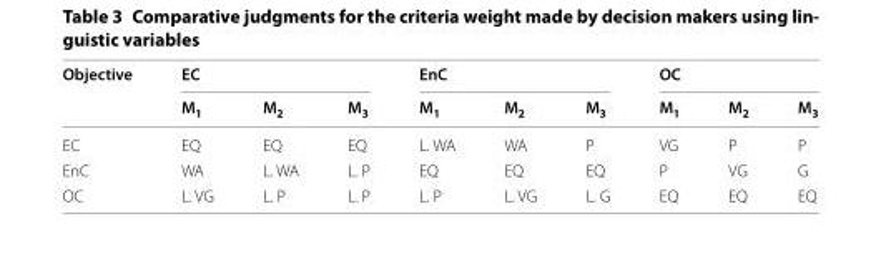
<table><thead><tr><td rowspan="2">Objective</td><td colspan="3">EC</td><td colspan="3">EnC</td><td colspan="3">OC</td></tr><tr><td>M<sub>1</sub></td><td>M<sub>2</sub></td><td>M<sub>3</sub></td><td>M<sub>1</sub></td><td>M<sub>2</sub></td><td>M<sub>3</sub></td><td>M<sub>1</sub></td><td>M<sub>2</sub></td><td>M<sub>3</sub></td></tr></thead><tbody><tr><td>EC</td><td>EQ</td><td>EQ</td><td>EQ</td><td>L. WA</td><td>WA</td><td>P</td><td>VG</td><td>P</td><td>P</td></tr><tr><td>EnC</td><td>WA</td><td>L. WA</td><td>L. P</td><td>EQ</td><td>EQ</td><td>EQ</td><td>P</td><td>VG</td><td>G</td></tr><tr><td>OC</td><td>L. VG</td><td>L. P</td><td>L. P</td><td>L. P</td><td>L. VG</td><td>L. G</td><td>EQ</td><td>EQ</td><td>EQ</td></tr></tbody></table>